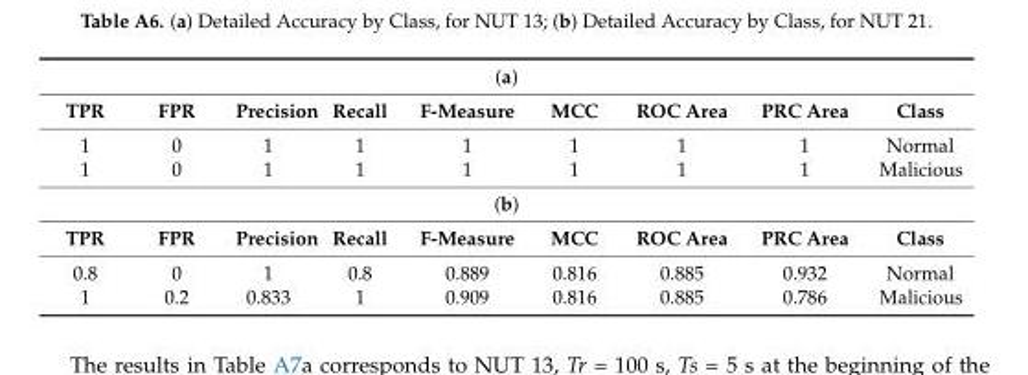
<table><tbody><tr><td colspan="9">(a)</td></tr><tr><td>TPR</td><td>FPR</td><td>Precision</td><td>Recall</td><td>F-Measure</td><td>MCC</td><td>ROC Area</td><td>PRC Area</td><td>Class</td></tr><tr><td>1</td><td>0</td><td>1</td><td>1</td><td>1</td><td>1</td><td>1</td><td>1</td><td>Normal</td></tr><tr><td>1</td><td>0</td><td>1</td><td>1</td><td>1</td><td>1</td><td>1</td><td>1</td><td>Malicious</td></tr><tr><td colspan="9">(b)</td></tr><tr><td>TPR</td><td>FPR</td><td>Precision</td><td>Recall</td><td>F-Measure</td><td>MCC</td><td>ROC Area</td><td>PRC Area</td><td>Class</td></tr><tr><td>0.8</td><td>0</td><td>1</td><td>0.8</td><td>0.889</td><td>0.816</td><td>0.885</td><td>0.932</td><td>Normal</td></tr><tr><td>1</td><td>0.2</td><td>0.833</td><td>1</td><td>0.909</td><td>0.816</td><td>0.885</td><td>0.786</td><td>Malicious</td></tr></tbody></table>